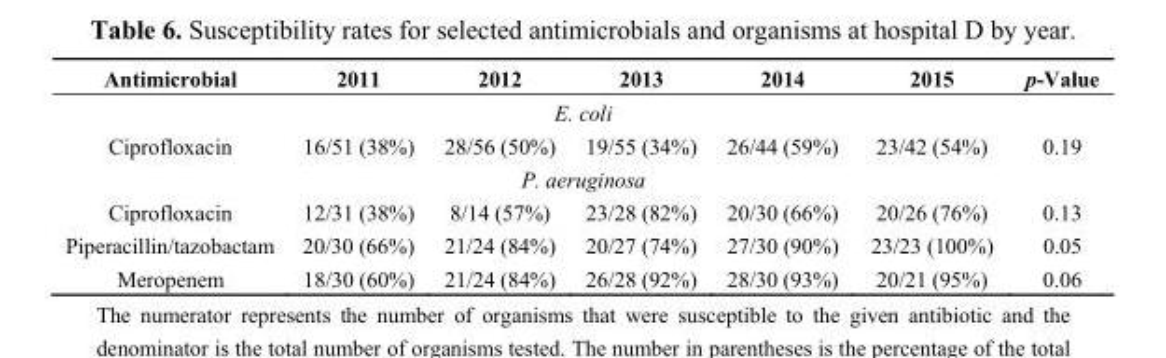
<table><thead><tr><td>Antimicrobial</td><td>2011</td><td>2012</td><td>2013</td><td>2014</td><td>2015</td><td>p-Value</td></tr></thead><tbody><tr><td colspan="7">E. coli</td></tr><tr><td>Ciprofloxacin</td><td>16/51 (38%)</td><td>28/56 (50%)</td><td>19/55 (34%)</td><td>26/44 (59%)</td><td>23/42 (54%)</td><td>0.19</td></tr><tr><td colspan="7">P. aeruginosa</td></tr><tr><td>Ciprofloxacin</td><td>12/31 (38%)</td><td>8/14 (57%)</td><td>23/28 (82%)</td><td>20/30 (66%)</td><td>20/26 (76%)</td><td>0.13</td></tr><tr><td>Piperacillin/tazobactam</td><td>20/30 (66%)</td><td>21/24 (84%)</td><td>20/27 (74%)</td><td>27/30 (90%)</td><td>23/23 (100%)</td><td>0.05</td></tr><tr><td>Meropenem</td><td>18/30 (60%)</td><td>21/24 (84%)</td><td>26/28 (92%)</td><td>28/30 (93%)</td><td>20/21 (95%)</td><td>0.06</td></tr></tbody></table>